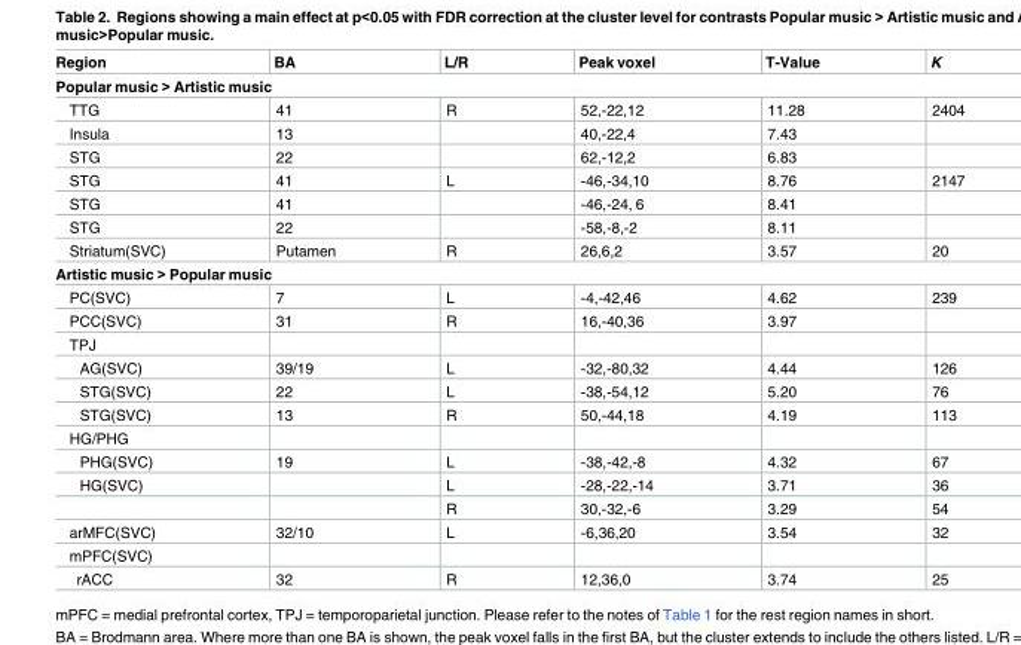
<table><thead><tr><td>Region</td><td>BA</td><td>L/R</td><td>Peak voxel</td><td>T-Value</td><td>K</td></tr></thead><tbody><tr><td colspan="6">Popular music &gt; Artistic music</td></tr><tr><td>TTG</td><td>41</td><td>R</td><td>52,-22,12</td><td>11.28</td><td>2404</td></tr><tr><td>Insula</td><td>13</td><td></td><td>40,-22,4</td><td>7.43</td><td></td></tr><tr><td>STG</td><td>22</td><td></td><td>62,-12,2</td><td>6.83</td><td></td></tr><tr><td>STG</td><td>41</td><td>L</td><td>-46,-34,10</td><td>8.76</td><td>2147</td></tr><tr><td>STG</td><td>41</td><td></td><td>-46,-24, 6</td><td>8.41</td><td></td></tr><tr><td>STG</td><td>22</td><td></td><td>-58,-8,-2</td><td>8.11</td><td></td></tr><tr><td>Striatum(SVC)</td><td>Putamen</td><td>R</td><td>26,6,2</td><td>3.57</td><td>20</td></tr><tr><td colspan="6">Artistic music &gt; Popular music</td></tr><tr><td>PC(SVC)</td><td>7</td><td>L</td><td>-4,-42,46</td><td>4.62</td><td>239</td></tr><tr><td>PCC(SVC)</td><td>31</td><td>R</td><td>16,-40,36</td><td>3.97</td><td></td></tr><tr><td colspan="6">TPJ</td></tr><tr><td>AG(SVC)</td><td>39/19</td><td>L</td><td>-32,-80,32</td><td>4.44</td><td>126</td></tr><tr><td>STG(SVC)</td><td>22</td><td>L</td><td>-38,-54,12</td><td>5.20</td><td>76</td></tr><tr><td>STG(SVC)</td><td>13</td><td>R</td><td>50,-44,18</td><td>4.19</td><td>113</td></tr><tr><td colspan="6">HG/PHG</td></tr><tr><td>PHG(SVC)</td><td>19</td><td>L</td><td>-38,-42,-8</td><td>4.32</td><td>67</td></tr><tr><td rowspan="2">HG(SVC)</td><td></td><td>L</td><td>-28,-22,-14</td><td>3.71</td><td>36</td></tr><tr><td></td><td>R</td><td>30,-32,-6</td><td>3.29</td><td>54</td></tr><tr><td>arMFC(SVC)</td><td>32/10</td><td>L</td><td>-6,36,20</td><td>3.54</td><td>32</td></tr><tr><td colspan="6">mPFC(SVC)</td></tr><tr><td>rACC</td><td>32</td><td>R</td><td>12,36,0</td><td>3.74</td><td>25</td></tr></tbody></table>